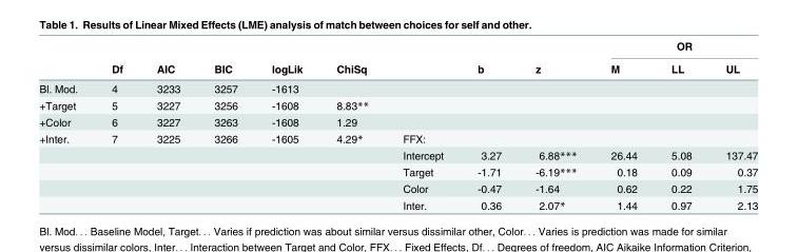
<table><thead><tr><td rowspan="2"></td><td rowspan="2">Df</td><td rowspan="2">AIC</td><td rowspan="2">BIC</td><td rowspan="2">logLik</td><td rowspan="2">ChiSq</td><td rowspan="2"></td><td rowspan="2">b</td><td rowspan="2">z</td><td colspan="3">OR</td></tr><tr><td>M</td><td>LL</td><td>UL</td></tr></thead><tbody><tr><td>Bl. Mod.</td><td>4</td><td>3233</td><td>3257</td><td>-1613</td><td></td><td></td><td></td><td></td><td></td><td></td><td></td></tr><tr><td>+Target</td><td>5</td><td>3227</td><td>3256</td><td>-1608</td><td>8.83**</td><td></td><td></td><td></td><td></td><td></td><td></td></tr><tr><td>+Color</td><td>6</td><td>3227</td><td>3263</td><td>-1608</td><td>1.29</td><td></td><td></td><td></td><td></td><td></td><td></td></tr><tr><td rowspan="5">+Inter.</td><td>7</td><td>3225</td><td>3266</td><td>-1605</td><td>4.29*</td><td>FFX:</td><td></td><td></td><td></td><td></td><td></td></tr><tr><td></td><td></td><td></td><td></td><td></td><td>Intercept</td><td>3.27</td><td>6.88***</td><td>26.44</td><td>5.08</td><td>137.47</td></tr><tr><td></td><td></td><td></td><td></td><td></td><td>Target</td><td>-1.71</td><td>-6.19***</td><td>0.18</td><td>0.09</td><td>0.37</td></tr><tr><td></td><td></td><td></td><td></td><td></td><td>Color</td><td>-0.47</td><td>-1.64</td><td>0.62</td><td>0.22</td><td>1.75</td></tr><tr><td></td><td></td><td></td><td></td><td></td><td>Inter.</td><td>0.36</td><td>2.07*</td><td>1.44</td><td>0.97</td><td>2.13</td></tr></tbody></table>